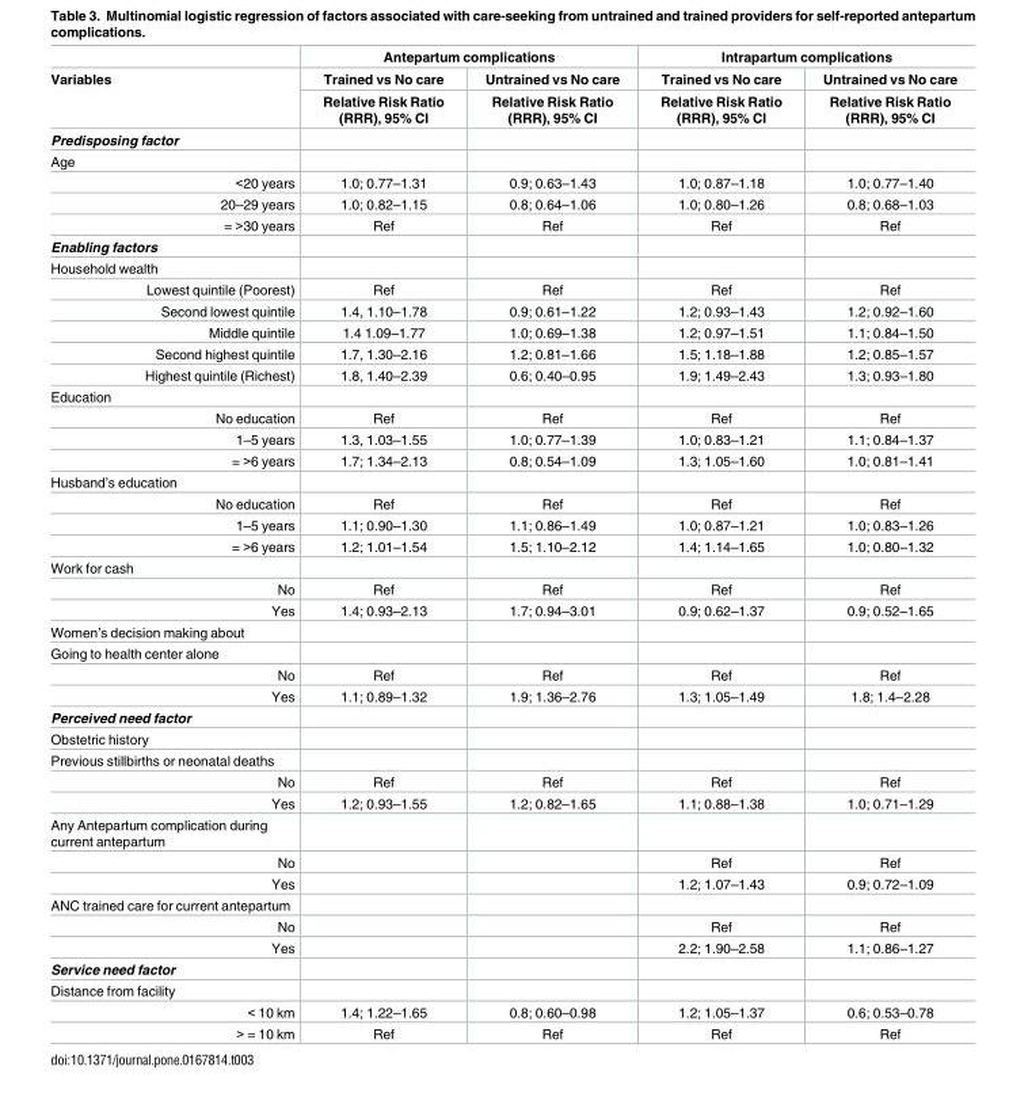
<table><thead><tr><td rowspan="3">Variables</td><td colspan="2">Antepartum complications</td><td colspan="2">Intrapartum complications</td></tr><tr><td rowspan="2">Trained vs No care Relative Risk Ratio (RRR), 95% CI</td><td rowspan="2">Untrained vs No care Relative Risk Ratio (RRR), 95% CI</td><td rowspan="2">Trained vs No care Relative Risk Ratio (RRR), 95% CI</td><td rowspan="2">Untrained vs No care Relative Risk Ratio (RRR), 95% CI</td></tr><tr></tr></thead><tbody><tr><td colspan="5">Predisposing factor</td></tr><tr><td colspan="5">Age</td></tr><tr><td>&lt;20 years</td><td>1.0; 0.77–1.31</td><td>0.9; 0.63–1.43</td><td>1.0; 0.87–1.18</td><td>1.0; 0.77–1.40</td></tr><tr><td>20–29 years</td><td>1.0; 0.82–1.15</td><td>0.8; 0.64–1.06</td><td>1.0; 0.80–1.26</td><td>0.8; 0.68–1.03</td></tr><tr><td>= &gt;30 years</td><td>Ref</td><td>Ref</td><td>Ref</td><td>Ref</td></tr><tr><td colspan="5">Enabling factors</td></tr><tr><td colspan="5">Household wealth</td></tr><tr><td>Lowest quintile (Poorest)</td><td>Ref</td><td>Ref</td><td>Ref</td><td>Ref</td></tr><tr><td>Second lowest quintile</td><td>1.4, 1.10–1.78</td><td>0.9; 0.61–1.22</td><td>1.2; 0.93–1.43</td><td>1.2; 0.92–1.60</td></tr><tr><td>Middle quintile</td><td>1.4 1.09–1.77</td><td>1.0; 0.69–1.38</td><td>1.2; 0.97–1.51</td><td>1.1; 0.84–1.50</td></tr><tr><td>Second highest quintile</td><td>1.7, 1.30–2.16</td><td>1.2; 0.81–1.66</td><td>1.5; 1.18–1.88</td><td>1.2; 0.85–1.57</td></tr><tr><td>Highest quintile (Richest)</td><td>1.8, 1.40–2.39</td><td>0.6; 0.40–0.95</td><td>1.9; 1.49–2.43</td><td>1.3; 0.93–1.80</td></tr><tr><td colspan="5">Education</td></tr><tr><td>No education</td><td>Ref</td><td>Ref</td><td>Ref</td><td>Ref</td></tr><tr><td>1–5 years</td><td>1.3, 1.03–1.55</td><td>1.0; 0.77–1.39</td><td>1.0; 0.83–1.21</td><td>1.1; 0.84–1.37</td></tr><tr><td>= &gt;6 years</td><td>1.7; 1.34–2.13</td><td>0.8; 0.54–1.09</td><td>1.3; 1.05–1.60</td><td>1.0; 0.81–1.41</td></tr><tr><td colspan="5">Husband’s education</td></tr><tr><td>No education</td><td>Ref</td><td>Ref</td><td>Ref</td><td>Ref</td></tr><tr><td>1–5 years</td><td>1.1; 0.90–1.30</td><td>1.1; 0.86–1.49</td><td>1.0; 0.87–1.21</td><td>1.0; 0.83–1.26</td></tr><tr><td>= &gt;6 years</td><td>1.2; 1.01–1.54</td><td>1.5; 1.10–2.12</td><td>1.4; 1.14–1.65</td><td>1.0; 0.80–1.32</td></tr><tr><td colspan="5">Work for cash</td></tr><tr><td>No</td><td>Ref</td><td>Ref</td><td>Ref</td><td>Ref</td></tr><tr><td>Yes</td><td>1.4; 0.93–2.13</td><td>1.7; 0.94–3.01</td><td>0.9; 0.62–1.37</td><td>0.9; 0.52–1.65</td></tr><tr><td colspan="5">Women’s decision making about</td></tr><tr><td colspan="5">Going to health center alone</td></tr><tr><td>No</td><td>Ref</td><td>Ref</td><td>Ref</td><td>Ref</td></tr><tr><td>Yes</td><td>1.1; 0.89–1.32</td><td>1.9; 1.36–2.76</td><td>1.3; 1.05–1.49</td><td>1.8; 1.4–2.28</td></tr><tr><td colspan="5">Perceived need factor</td></tr><tr><td colspan="5">Obstetric history</td></tr><tr><td colspan="5">Previous stillbirths or neonatal deaths</td></tr><tr><td>No</td><td>Ref</td><td>Ref</td><td>Ref</td><td>Ref</td></tr><tr><td>Yes</td><td>1.2; 0.93–1.55</td><td>1.2; 0.82–1.65</td><td>1.1; 0.88–1.38</td><td>1.0; 0.71–1.29</td></tr><tr><td colspan="5">Any Antepartum complication during current antepartum</td></tr><tr><td>No</td><td></td><td></td><td>Ref</td><td>Ref</td></tr><tr><td>Yes</td><td></td><td></td><td>1.2; 1.07–1.43</td><td>0.9; 0.72–1.09</td></tr><tr><td colspan="5">ANC trained care for current antepartum</td></tr><tr><td>No</td><td></td><td></td><td>Ref</td><td>Ref</td></tr><tr><td>Yes</td><td></td><td></td><td>2.2; 1.90–2.58</td><td>1.1; 0.86–1.27</td></tr><tr><td colspan="5">Service need factor</td></tr><tr><td colspan="5">Distance from facility</td></tr><tr><td>&lt; 10 km</td><td>1.4; 1.22–1.65</td><td>0.8; 0.60–0.98</td><td>1.2; 1.05–1.37</td><td>0.6; 0.53–0.78</td></tr><tr><td>&gt; = 10 km</td><td>Ref</td><td>Ref</td><td>Ref</td><td>Ref</td></tr></tbody></table>